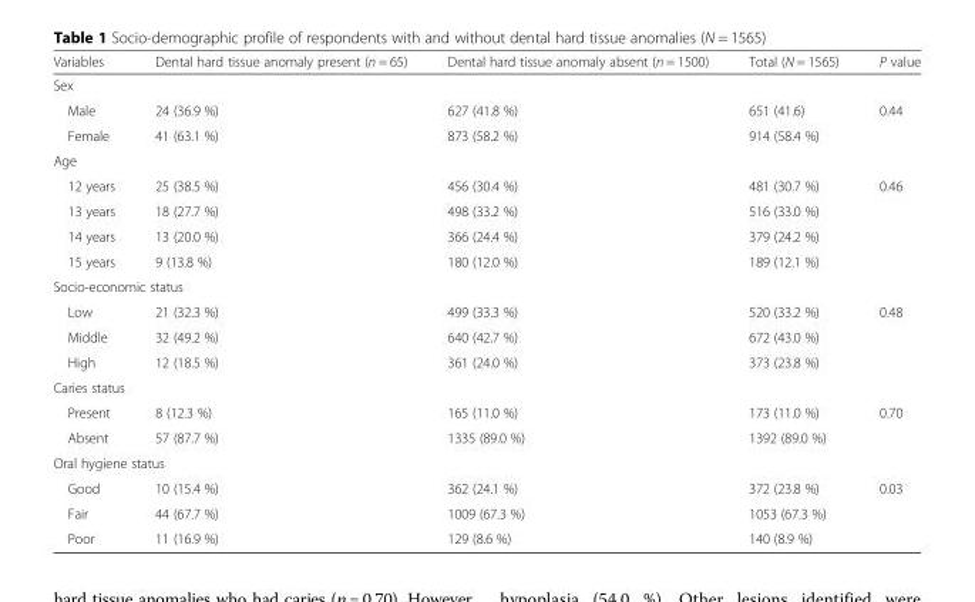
<table><thead><tr><td>Variables</td><td>Dental hard tissue anomaly present (n = 65)</td><td>Dental hard tissue anomaly absent (n = 1500)</td><td>Total (N = 1565)</td><td>P value</td></tr></thead><tbody><tr><td colspan="5">Sex</td></tr><tr><td>Male</td><td>24 (36.9 %)</td><td>627 (41.8 %)</td><td>651 (41.6)</td><td rowspan="2">0.44</td></tr><tr><td>Female</td><td>41 (63.1 %)</td><td>873 (58.2 %)</td><td>914 (58.4 %)</td></tr><tr><td colspan="5">Age</td></tr><tr><td>12 years</td><td>25 (38.5 %)</td><td>456 (30.4 %)</td><td>481 (30.7 %)</td><td rowspan="4">0.46</td></tr><tr><td>13 years</td><td>18 (27.7 %)</td><td>498 (33.2 %)</td><td>516 (33.0 %)</td></tr><tr><td>14 years</td><td>13 (20.0 %)</td><td>366 (24.4 %)</td><td>379 (24.2 %)</td></tr><tr><td>15 years</td><td>9 (13.8 %)</td><td>180 (12.0 %)</td><td>189 (12.1 %)</td></tr><tr><td colspan="5">Socio-economic status</td></tr><tr><td>Low</td><td>21 (32.3 %)</td><td>499 (33.3 %)</td><td>520 (33.2 %)</td><td rowspan="3">0.48</td></tr><tr><td>Middle</td><td>32 (49.2 %)</td><td>640 (42.7 %)</td><td>672 (43.0 %)</td></tr><tr><td>High</td><td>12 (18.5 %)</td><td>361 (24.0 %)</td><td>373 (23.8 %)</td></tr><tr><td colspan="5">Caries status</td></tr><tr><td>Present</td><td>8 (12.3 %)</td><td>165 (11.0 %)</td><td>173 (11.0 %)</td><td rowspan="2">0.70</td></tr><tr><td>Absent</td><td>57 (87.7 %)</td><td>1335 (89.0 %)</td><td>1392 (89.0 %)</td></tr><tr><td colspan="5">Oral hygiene status</td></tr><tr><td>Good</td><td>10 (15.4 %)</td><td>362 (24.1 %)</td><td>372 (23.8 %)</td><td rowspan="3">0.03</td></tr><tr><td>Fair</td><td>44 (67.7 %)</td><td>1009 (67.3 %)</td><td>1053 (67.3 %)</td></tr><tr><td>Poor</td><td>11 (16.9 %)</td><td>129 (8.6 %)</td><td>140 (8.9 %)</td></tr></tbody></table>